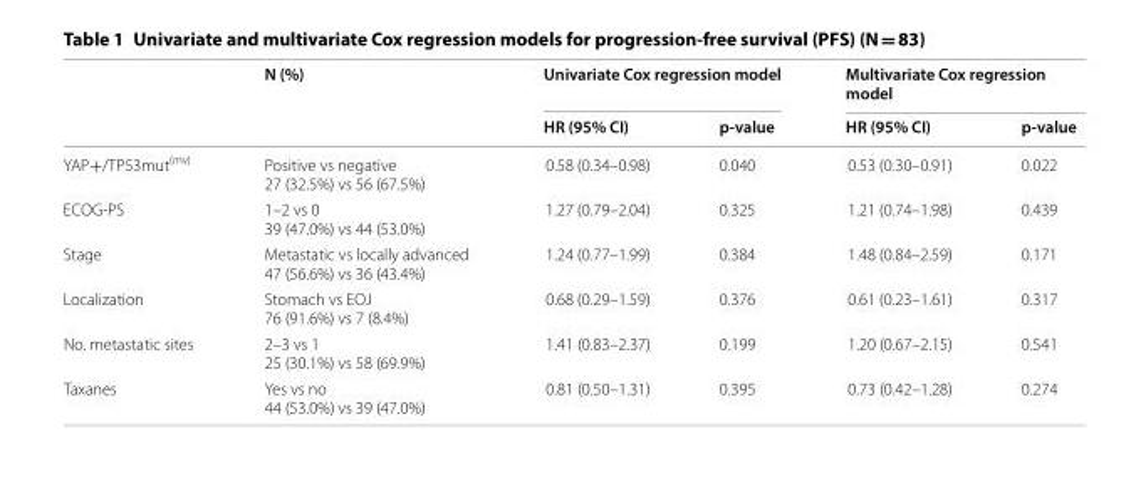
<table><thead><tr><td rowspan="2"></td><td rowspan="2">N (%)</td><td colspan="2">Univariate Cox regression model</td><td colspan="2">Multivariate Cox regression model</td></tr><tr><td>HR (95% CI)</td><td>p‑value</td><td>HR (95% CI)</td><td>p‑value</td></tr></thead><tbody><tr><td>YAP+/TP53mut<sup>(mv)</sup></td><td>Positive vs negative 27 (32.5%) vs 56 (67.5%)</td><td>0.58 (0.34–0.98)</td><td>0.040</td><td>0.53 (0.30–0.91)</td><td>0.022</td></tr><tr><td>ECOG‑PS</td><td>1–2 vs 0 39 (47.0%) vs 44 (53.0%)</td><td>1.27 (0.79–2.04)</td><td>0.325</td><td>1.21 (0.74–1.98)</td><td>0.439</td></tr><tr><td>Stage</td><td>Metastatic vs locally advanced 47 (56.6%) vs 36 (43.4%)</td><td>1.24 (0.77–1.99)</td><td>0.384</td><td>1.48 (0.84–2.59)</td><td>0.171</td></tr><tr><td>Localization</td><td>Stomach vs EOJ 76 (91.6%) vs 7 (8.4%)</td><td>0.68 (0.29–1.59)</td><td>0.376</td><td>0.61 (0.23–1.61)</td><td>0.317</td></tr><tr><td>No. metastatic sites</td><td>2–3 vs 1 25 (30.1%) vs 58 (69.9%)</td><td>1.41 (0.83–2.37)</td><td>0.199</td><td>1.20 (0.67–2.15)</td><td>0.541</td></tr><tr><td>Taxanes</td><td>Yes vs no 44 (53.0%) vs 39 (47.0%)</td><td>0.81 (0.50–1.31)</td><td>0.395</td><td>0.73 (0.42–1.28)</td><td>0.274</td></tr></tbody></table>